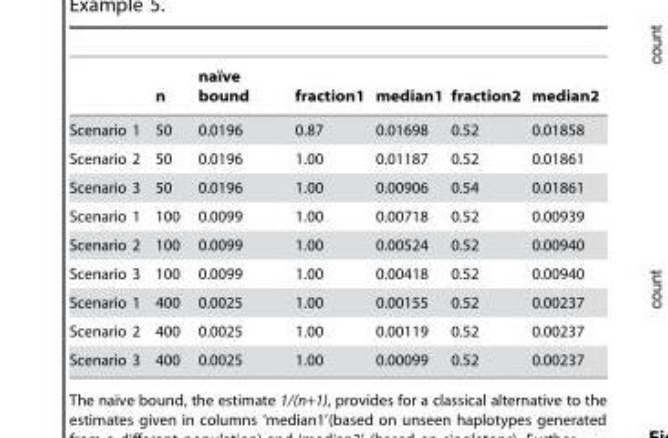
<table><thead><tr><td></td><td>n</td><td>naı¨ve bound</td><td>fraction1</td><td>median1</td><td>fraction2</td><td>median2</td></tr></thead><tbody><tr><td>Scenario 1</td><td>50</td><td>0.0196</td><td>0.87</td><td>0.01698</td><td>0.52</td><td>0.01858</td></tr><tr><td>Scenario 2</td><td>50</td><td>0.0196</td><td>1.00</td><td>0.01187</td><td>0.52</td><td>0.01861</td></tr><tr><td>Scenario 3</td><td>50</td><td>0.0196</td><td>1.00</td><td>0.00906</td><td>0.54</td><td>0.01861</td></tr><tr><td>Scenario 1</td><td>100</td><td>0.0099</td><td>1.00</td><td>0.00718</td><td>0.52</td><td>0.00939</td></tr><tr><td>Scenario 2</td><td>100</td><td>0.0099</td><td>1.00</td><td>0.00524</td><td>0.52</td><td>0.00940</td></tr><tr><td>Scenario 3</td><td>100</td><td>0.0099</td><td>1.00</td><td>0.00418</td><td>0.52</td><td>0.00940</td></tr><tr><td>Scenario 1</td><td>400</td><td>0.0025</td><td>1.00</td><td>0.00155</td><td>0.52</td><td>0.00237</td></tr><tr><td>Scenario 2</td><td>400</td><td>0.0025</td><td>1.00</td><td>0.00119</td><td>0.52</td><td>0.00237</td></tr><tr><td>Scenario 3</td><td>400</td><td>0.0025</td><td>1.00</td><td>0.00099</td><td>0.52</td><td>0.00237</td></tr></tbody></table>